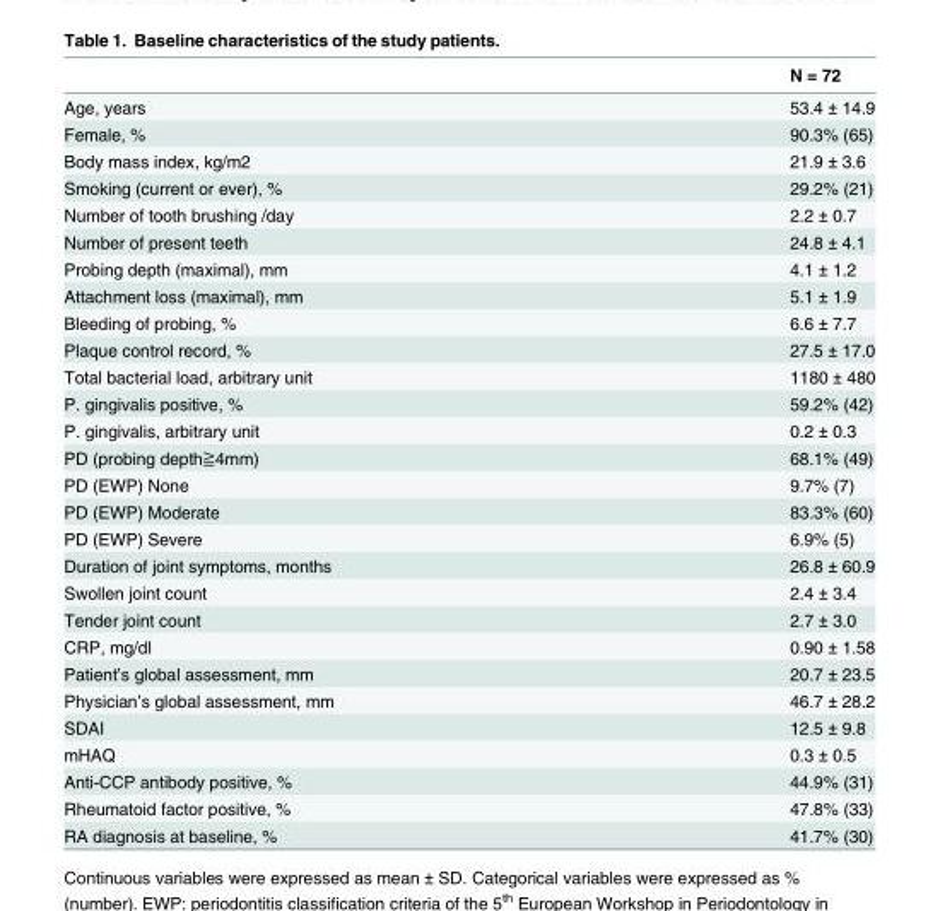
<table><thead><tr><td></td><td>N = 72</td></tr></thead><tbody><tr><td>Age, years</td><td>53.4 ± 14.9</td></tr><tr><td>Female, %</td><td>90.3% (65)</td></tr><tr><td>Body mass index, kg/m2</td><td>21.9 ± 3.6</td></tr><tr><td>Smoking (current or ever), %</td><td>29.2% (21)</td></tr><tr><td>Number of tooth brushing /day</td><td>2.2 ± 0.7</td></tr><tr><td>Number of present teeth</td><td>24.8 ± 4.1</td></tr><tr><td>Probing depth (maximal), mm</td><td>4.1 ± 1.2</td></tr><tr><td>Attachment loss (maximal), mm</td><td>5.1 ± 1.9</td></tr><tr><td>Bleeding of probing, %</td><td>6.6 ± 7.7</td></tr><tr><td>Plaque control record, %</td><td>27.5 ± 17.0</td></tr><tr><td>Total bacterial load, arbitrary unit</td><td>1180 ± 480</td></tr><tr><td>P. gingivalis positive, %</td><td>59.2% (42)</td></tr><tr><td>P. gingivalis, arbitrary unit</td><td>0.2 ± 0.3</td></tr><tr><td>PD (probing depth≧4mm)</td><td>68.1% (49)</td></tr><tr><td>PD (EWP) None</td><td>9.7% (7)</td></tr><tr><td>PD (EWP) Moderate</td><td>83.3% (60)</td></tr><tr><td>PD (EWP) Severe</td><td>6.9% (5)</td></tr><tr><td>Duration of joint symptoms, months</td><td>26.8 ± 60.9</td></tr><tr><td>Swollen joint count</td><td>2.4 ± 3.4</td></tr><tr><td>Tender joint count</td><td>2.7 ± 3.0</td></tr><tr><td>CRP, mg/dl</td><td>0.90 ± 1.58</td></tr><tr><td>Patient’s global assessment, mm</td><td>20.7 ± 23.5</td></tr><tr><td>Physician’s global assessment, mm</td><td>46.7 ± 28.2</td></tr><tr><td>SDAI</td><td>12.5 ± 9.8</td></tr><tr><td>mHAQ</td><td>0.3 ± 0.5</td></tr><tr><td>Anti-CCP antibody positive, %</td><td>44.9% (31)</td></tr><tr><td>Rheumatoid factor positive, %</td><td>47.8% (33)</td></tr><tr><td>RA diagnosis at baseline, %</td><td>41.7% (30)</td></tr></tbody></table>